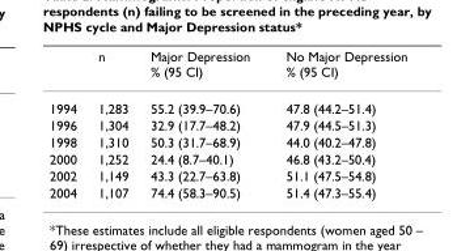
<table><thead><tr><td></td><td>n</td><td>Major Depression % (95 CI)</td><td>No Major Depression % (95 CI)</td></tr></thead><tbody><tr><td>1994</td><td>1,283</td><td>55.2 (39.9–70.6)</td><td>47.8 (44.2–51.4)</td></tr><tr><td>1996</td><td>1,304</td><td>32.9 (17.7–48.2)</td><td>47.9 (44.5–51.3)</td></tr><tr><td>1998</td><td>1,310</td><td>50.3 (31.7–68.9)</td><td>44.0 (40.2–47.8)</td></tr><tr><td>2000</td><td>1,252</td><td>24.4 (8.7–40.1)</td><td>46.8 (43.2–50.4)</td></tr><tr><td>2002</td><td>1,149</td><td>43.3 (22.7–63.8)</td><td>51.1 (47.5–54.8)</td></tr><tr><td>2004</td><td>1,107</td><td>74.4 (58.3–90.5)</td><td>51.4 (47.3–55.4)</td></tr></tbody></table>